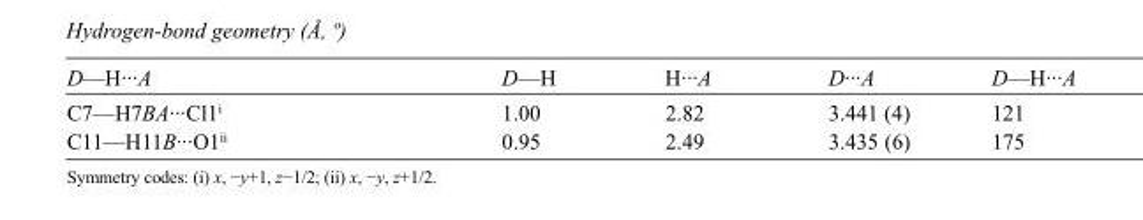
<table><tbody><tr><td>D—H···A</td><td>D—H</td><td>H···A</td><td>D···A</td><td>D—H···A</td></tr><tr><td>C7—H7BA···Cl1<sup>i</sup></td><td>1.00</td><td>2.82</td><td>3.441 (4)</td><td>121</td></tr><tr><td>C11—H11B···O1<sup>ii</sup></td><td>0.95</td><td>2.49</td><td>3.435 (6)</td><td>175</td></tr></tbody></table>